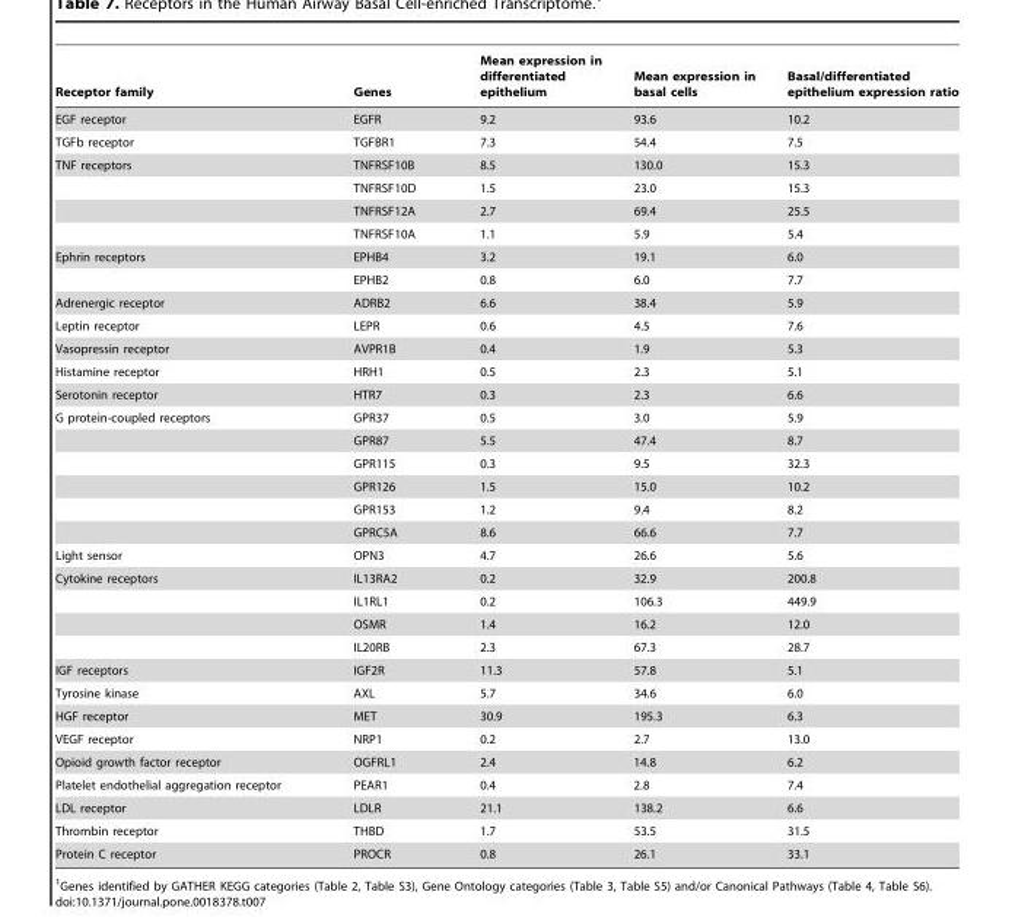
<table><thead><tr><td>Receptor family</td><td>Genes</td><td>Mean expression in differentiated epithelium</td><td>Mean expression in basal cells</td><td>Basal/differentiated epithelium expression ratio</td></tr></thead><tbody><tr><td>EGF receptor</td><td>EGFR</td><td>9.2</td><td>93.6</td><td>10.2</td></tr><tr><td>TGFb receptor</td><td>TGFBR1</td><td>7.3</td><td>54.4</td><td>7.5</td></tr><tr><td rowspan="4">TNF receptors</td><td>TNFRSF10B</td><td>8.5</td><td>130.0</td><td>15.3</td></tr><tr><td>TNFRSF10D</td><td>1.5</td><td>23.0</td><td>15.3</td></tr><tr><td>TNFRSF12A</td><td>2.7</td><td>69.4</td><td>25.5</td></tr><tr><td>TNFRSF10A</td><td>1.1</td><td>5.9</td><td>5.4</td></tr><tr><td rowspan="2">Ephrin receptors</td><td>EPHB4</td><td>3.2</td><td>19.1</td><td>6.0</td></tr><tr><td>EPHB2</td><td>0.8</td><td>6.0</td><td>7.7</td></tr><tr><td>Adrenergic receptor</td><td>ADRB2</td><td>6.6</td><td>38.4</td><td>5.9</td></tr><tr><td>Leptin receptor</td><td>LEPR</td><td>0.6</td><td>4.5</td><td>7.6</td></tr><tr><td>Vasopressin receptor</td><td>AVPR1B</td><td>0.4</td><td>1.9</td><td>5.3</td></tr><tr><td>Histamine receptor</td><td>HRH1</td><td>0.5</td><td>2.3</td><td>5.1</td></tr><tr><td>Serotonin receptor</td><td>HTR7</td><td>0.3</td><td>2.3</td><td>6.6</td></tr><tr><td rowspan="6">G protein-coupled receptors</td><td>GPR37</td><td>0.5</td><td>3.0</td><td>5.9</td></tr><tr><td>GPR87</td><td>5.5</td><td>47.4</td><td>8.7</td></tr><tr><td>GPR115</td><td>0.3</td><td>9.5</td><td>32.3</td></tr><tr><td>GPR126</td><td>1.5</td><td>15.0</td><td>10.2</td></tr><tr><td>GPR153</td><td>1.2</td><td>9.4</td><td>8.2</td></tr><tr><td>GPRC5A</td><td>8.6</td><td>66.6</td><td>7.7</td></tr><tr><td>Light sensor</td><td>OPN3</td><td>4.7</td><td>26.6</td><td>5.6</td></tr><tr><td rowspan="4">Cytokine receptors</td><td>IL13RA2</td><td>0.2</td><td>32.9</td><td>200.8</td></tr><tr><td>IL1RL1</td><td>0.2</td><td>106.3</td><td>449.9</td></tr><tr><td>OSMR</td><td>1.4</td><td>16.2</td><td>12.0</td></tr><tr><td>IL20RB</td><td>2.3</td><td>67.3</td><td>28.7</td></tr><tr><td>IGF receptors</td><td>IGF2R</td><td>11.3</td><td>57.8</td><td>5.1</td></tr><tr><td>Tyrosine kinase</td><td>AXL</td><td>5.7</td><td>34.6</td><td>6.0</td></tr><tr><td>HGF receptor</td><td>MET</td><td>30.9</td><td>195.3</td><td>6.3</td></tr><tr><td>VEGF receptor</td><td>NRP1</td><td>0.2</td><td>2.7</td><td>13.0</td></tr><tr><td>Opioid growth factor receptor</td><td>OGFRL1</td><td>2.4</td><td>14.8</td><td>6.2</td></tr><tr><td>Platelet endothelial aggregation receptor</td><td>PEAR1</td><td>0.4</td><td>2.8</td><td>7.4</td></tr><tr><td>LDL receptor</td><td>LDLR</td><td>21.1</td><td>138.2</td><td>6.6</td></tr><tr><td>Thrombin receptor</td><td>THBD</td><td>1.7</td><td>53.5</td><td>31.5</td></tr><tr><td>Protein C receptor</td><td>PROCR</td><td>0.8</td><td>26.1</td><td>33.1</td></tr></tbody></table>